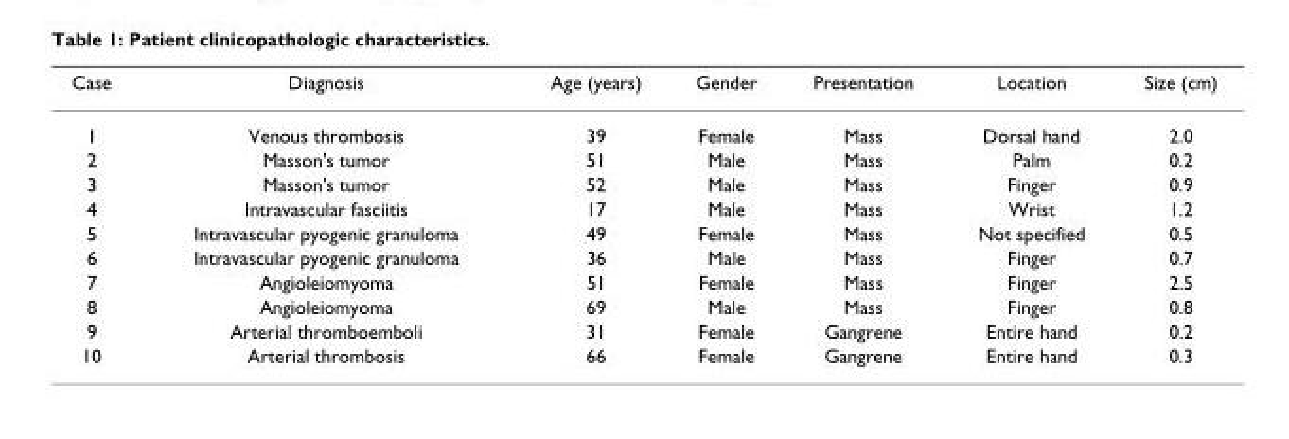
<table><thead><tr><td>Case</td><td>Diagnosis</td><td>Age (years)</td><td>Gender</td><td>Presentation</td><td>Location</td><td>Size (cm)</td></tr></thead><tbody><tr><td>1</td><td>Venous thrombosis</td><td>39</td><td>Female</td><td>Mass</td><td>Dorsal hand</td><td>2.0</td></tr><tr><td>2</td><td>Masson&#x27;s tumor</td><td>51</td><td>Male</td><td>Mass</td><td>Palm</td><td>0.2</td></tr><tr><td>3</td><td>Masson&#x27;s tumor</td><td>52</td><td>Male</td><td>Mass</td><td>Finger</td><td>0.9</td></tr><tr><td>4</td><td>Intravascular fasciitis</td><td>17</td><td>Male</td><td>Mass</td><td>Wrist</td><td>1.2</td></tr><tr><td>5</td><td>Intravascular pyogenic granuloma</td><td>49</td><td>Female</td><td>Mass</td><td>Not specified</td><td>0.5</td></tr><tr><td>6</td><td>Intravascular pyogenic granuloma</td><td>36</td><td>Male</td><td>Mass</td><td>Finger</td><td>0.7</td></tr><tr><td>7</td><td>Angioleiomyoma</td><td>51</td><td>Female</td><td>Mass</td><td>Finger</td><td>2.5</td></tr><tr><td>8</td><td>Angioleiomyoma</td><td>69</td><td>Male</td><td>Mass</td><td>Finger</td><td>0.8</td></tr><tr><td>9</td><td>Arterial thromboemboli</td><td>31</td><td>Female</td><td>Gangrene</td><td>Entire hand</td><td>0.2</td></tr><tr><td>10</td><td>Arterial thrombosis</td><td>66</td><td>Female</td><td>Gangrene</td><td>Entire hand</td><td>0.3</td></tr></tbody></table>